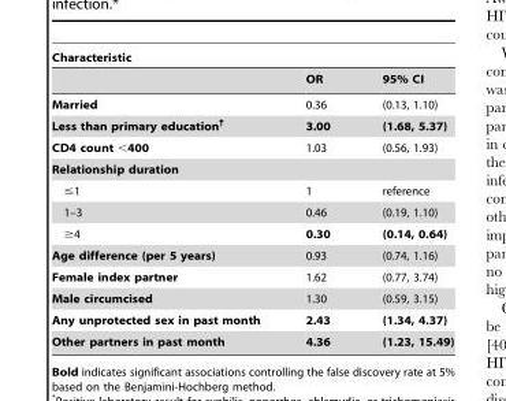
<table><thead><tr><td rowspan="2">Characteristic</td><td rowspan="2">OR</td><td rowspan="2">95% CI</td></tr><tr></tr></thead><tbody><tr><td>Married</td><td>0.36</td><td>(0.13, 1.10)</td></tr><tr><td>Less than primary education†</td><td>3.00</td><td>(1.68, 5.37)</td></tr><tr><td>CD4 count &lt;400</td><td>1.03</td><td>(0.56, 1.93)</td></tr><tr><td colspan="3">Relationship duration</td></tr><tr><td>≤1</td><td>1</td><td>reference</td></tr><tr><td>1–3</td><td>0.46</td><td>(0.19, 1.10)</td></tr><tr><td>≥4</td><td>0.30</td><td>(0.14, 0.64)</td></tr><tr><td>Age difference (per 5 years)</td><td>0.93</td><td>(0.74, 1.16)</td></tr><tr><td>Female index partner</td><td>1.62</td><td>(0.77, 3.74)</td></tr><tr><td>Male circumcised</td><td>1.30</td><td>(0.59, 3.15)</td></tr><tr><td>Any unprotected sex in past month</td><td>2.43</td><td>(1.34, 4.37)</td></tr><tr><td>Other partners in past month</td><td>4.36</td><td>(1.23, 15.49)</td></tr></tbody></table>